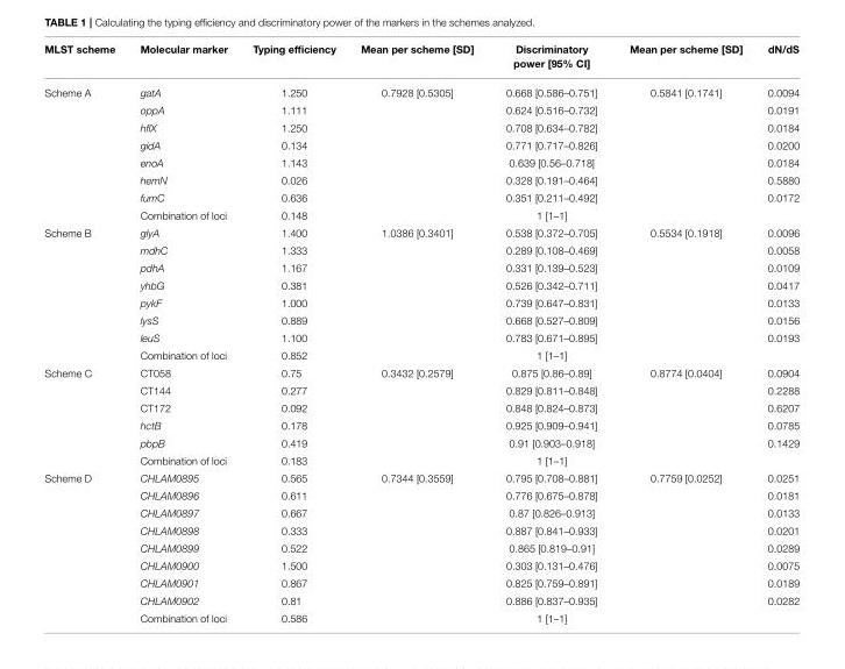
<table><thead><tr><td>MLST scheme</td><td>Molecular marker</td><td>Typing efficiency</td><td>Mean per scheme [SD]</td><td>Discriminatory power [95% CI]</td><td>Mean per scheme [SD]</td><td>dN/dS</td></tr></thead><tbody><tr><td rowspan="8">Scheme A</td><td>gatA</td><td>1.250</td><td>0.7928 [0.5305]</td><td>0.668 [0.586–0.751]</td><td>0.5841 [0.1741]</td><td>0.0094</td></tr><tr><td>oppA</td><td>1.111</td><td></td><td>0.624 [0.516–0.732]</td><td></td><td>0.0191</td></tr><tr><td>hflX</td><td>1.250</td><td></td><td>0.708 [0.634–0.782]</td><td></td><td>0.0184</td></tr><tr><td>gidA</td><td>0.134</td><td></td><td>0.771 [0.717–0.826]</td><td></td><td>0.0200</td></tr><tr><td>enoA</td><td>1.143</td><td></td><td>0.639 [0.56–0.718]</td><td></td><td>0.0184</td></tr><tr><td>hemN</td><td>0.026</td><td></td><td>0.328 [0.191–0.464]</td><td></td><td>0.5880</td></tr><tr><td>fumC</td><td>0.636</td><td></td><td>0.351 [0.211–0.492]</td><td></td><td>0.0172</td></tr><tr><td>Combination of loci</td><td>0.148</td><td></td><td>1 [1–1]</td><td></td><td></td></tr><tr><td rowspan="8">Scheme B</td><td>glyA</td><td>1.400</td><td>1.0386 [0.3401]</td><td>0.538 [0.372–0.705]</td><td>0.5534 [0.1918]</td><td>0.0096</td></tr><tr><td>mdhC</td><td>1.333</td><td></td><td>0.289 [0.108–0.469]</td><td></td><td>0.0058</td></tr><tr><td>pdhA</td><td>1.167</td><td></td><td>0.331 [0.139–0.523]</td><td></td><td>0.0109</td></tr><tr><td>yhbG</td><td>0.381</td><td></td><td>0.526 [0.342–0.711]</td><td></td><td>0.0417</td></tr><tr><td>pykF</td><td>1.000</td><td></td><td>0.739 [0.647–0.831]</td><td></td><td>0.0133</td></tr><tr><td>lysS</td><td>0.889</td><td></td><td>0.668 [0.527–0.809]</td><td></td><td>0.0156</td></tr><tr><td>leuS</td><td>1.100</td><td></td><td>0.783 [0.671–0.895]</td><td></td><td>0.0193</td></tr><tr><td>Combination of loci</td><td>0.852</td><td></td><td>1 [1–1]</td><td></td><td></td></tr><tr><td rowspan="6">Scheme C</td><td>CT058</td><td>0.75</td><td>0.3432 [0.2579]</td><td>0.875 [0.86–0.89]</td><td>0.8774 [0.0404]</td><td>0.0904</td></tr><tr><td>CT144</td><td>0.277</td><td></td><td>0.829 [0.811–0.848]</td><td></td><td>0.2288</td></tr><tr><td>CT172</td><td>0.092</td><td></td><td>0.848 [0.824–0.873]</td><td></td><td>0.6207</td></tr><tr><td>hctB</td><td>0.178</td><td></td><td>0.925 [0.909–0.941]</td><td></td><td>0.0785</td></tr><tr><td>pbpB</td><td>0.419</td><td></td><td>0.91 [0.903–0.918]</td><td></td><td>0.1429</td></tr><tr><td>Combination of loci</td><td>0.183</td><td></td><td>1 [1–1]</td><td></td><td></td></tr><tr><td rowspan="9">Scheme D</td><td>CHLAM0895</td><td>0.565</td><td>0.7344 [0.3559]</td><td>0.795 [0.708–0.881]</td><td>0.7759 [0.0252]</td><td>0.0251</td></tr><tr><td>CHLAM0896</td><td>0.611</td><td></td><td>0.776 [0.675–0.878]</td><td></td><td>0.0181</td></tr><tr><td>CHLAM0897</td><td>0.667</td><td></td><td>0.87 [0.826–0.913]</td><td></td><td>0.0133</td></tr><tr><td>CHLAM0898</td><td>0.333</td><td></td><td>0.887 [0.841–0.933]</td><td></td><td>0.0201</td></tr><tr><td>CHLAM0899</td><td>0.522</td><td></td><td>0.865 [0.819–0.91]</td><td></td><td>0.0289</td></tr><tr><td>CHLAM0900</td><td>1.500</td><td></td><td>0.303 [0.131–0.476]</td><td></td><td>0.0075</td></tr><tr><td>CHLAM0901</td><td>0.867</td><td></td><td>0.825 [0.759–0.891]</td><td></td><td>0.0189</td></tr><tr><td>CHLAM0902</td><td>0.81</td><td></td><td>0.886 [0.837–0.935]</td><td></td><td>0.0282</td></tr><tr><td>Combination of loci</td><td>0.586</td><td></td><td>1 [1–1]</td><td></td><td></td></tr></tbody></table>